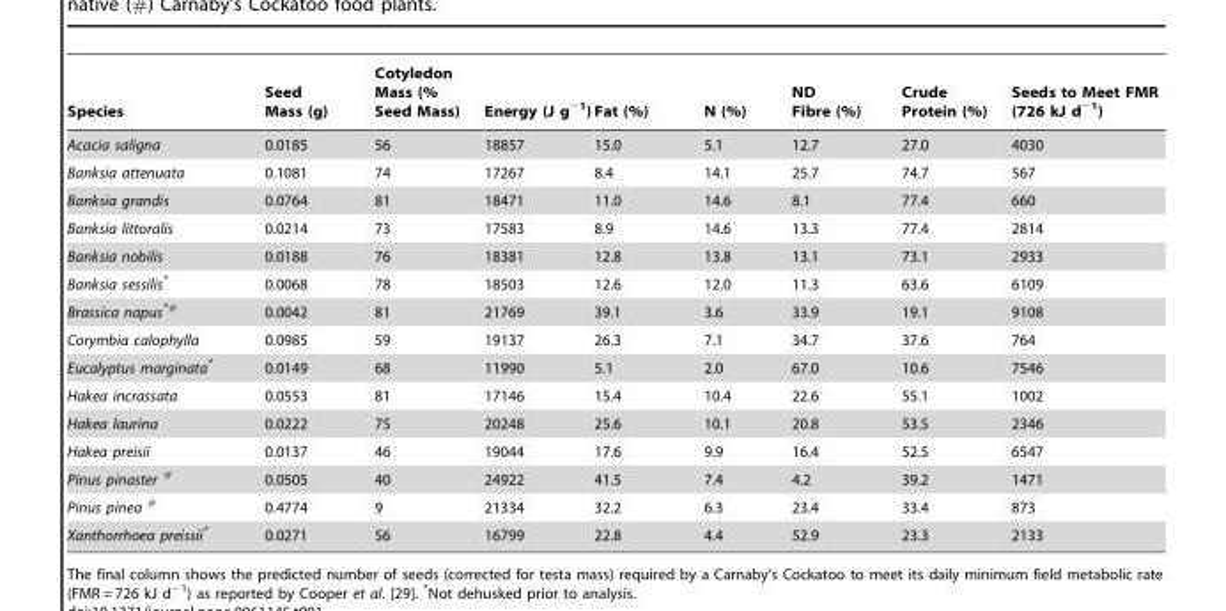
<table><thead><tr><td>Species</td><td>Seed Mass (g)</td><td>Cotyledon Mass (% Seed Mass)</td><td>Energy (J g<sup>−1</sup>)</td><td>Fat (%)</td><td>N (%)</td><td>ND Fibre (%)</td><td>Crude Protein (%)</td><td>Seeds to Meet FMR (726 kJ d<sup>−1</sup>)</td></tr></thead><tbody><tr><td>Acacia saligna</td><td>0.0185</td><td>56</td><td>18857</td><td>15.0</td><td>5.1</td><td>12.7</td><td>27.0</td><td>4030</td></tr><tr><td>Banksia attenuata</td><td>0.1081</td><td>74</td><td>17267</td><td>8.4</td><td>14.1</td><td>25.7</td><td>74.7</td><td>567</td></tr><tr><td>Banksia grandis</td><td>0.0764</td><td>81</td><td>18471</td><td>11.0</td><td>14.6</td><td>8.1</td><td>77.4</td><td>660</td></tr><tr><td>Banksia littoralis</td><td>0.0214</td><td>73</td><td>17583</td><td>8.9</td><td>14.6</td><td>13.3</td><td>77.4</td><td>2814</td></tr><tr><td>Banksia nobilis</td><td>0.0188</td><td>76</td><td>18381</td><td>12.8</td><td>13.8</td><td>13.1</td><td>73.1</td><td>2933</td></tr><tr><td>Banksia sessilis*</td><td>0.0068</td><td>78</td><td>18503</td><td>12.6</td><td>12.0</td><td>11.3</td><td>63.6</td><td>6109</td></tr><tr><td>Brassica napus<sup>*#</sup></td><td>0.0042</td><td>81</td><td>21769</td><td>39.1</td><td>3.6</td><td>33.9</td><td>19.1</td><td>9108</td></tr><tr><td>Corymbia calophylla</td><td>0.0985</td><td>59</td><td>19137</td><td>26.3</td><td>7.1</td><td>34.7</td><td>37.6</td><td>764</td></tr><tr><td>Eucalyptus marginata*</td><td>0.0149</td><td>68</td><td>11990</td><td>5.1</td><td>2.0</td><td>67.0</td><td>10.6</td><td>7546</td></tr><tr><td>Hakea incrassata</td><td>0.0553</td><td>81</td><td>17146</td><td>15.4</td><td>10.4</td><td>22.6</td><td>55.1</td><td>1002</td></tr><tr><td>Hakea laurina</td><td>0.0222</td><td>75</td><td>20248</td><td>25.6</td><td>10.1</td><td>20.8</td><td>53.5</td><td>2346</td></tr><tr><td>Hakea preisii</td><td>0.0137</td><td>46</td><td>19044</td><td>17.6</td><td>9.9</td><td>16.4</td><td>52.5</td><td>6547</td></tr><tr><td>Pinus pinaster <sup>#</sup></td><td>0.0505</td><td>40</td><td>24922</td><td>41.5</td><td>7.4</td><td>4.2</td><td>39.2</td><td>1471</td></tr><tr><td>Pinus pinea <sup>#</sup></td><td>0.4774</td><td>9</td><td>21334</td><td>32.2</td><td>6.3</td><td>23.4</td><td>33.4</td><td>873</td></tr><tr><td>Xanthorrhoea preissii*</td><td>0.0271</td><td>56</td><td>16799</td><td>22.8</td><td>4.4</td><td>52.9</td><td>23.3</td><td>2133</td></tr></tbody></table>